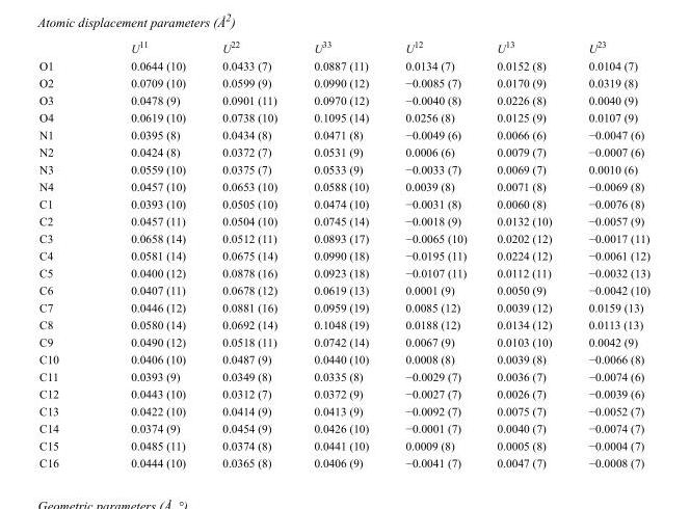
<table><thead><tr><td></td><td>U<sup>11</sup></td><td>U<sup>22</sup></td><td>U<sup>33</sup></td><td>U<sup>12</sup></td><td>U<sup>13</sup></td><td>U<sup>23</sup></td></tr></thead><tbody><tr><td>O1</td><td>0.0644 (10)</td><td>0.0433 (7)</td><td>0.0887 (11)</td><td>0.0134 (7)</td><td>0.0152 (8)</td><td>0.0104 (7)</td></tr><tr><td>O2</td><td>0.0709 (10)</td><td>0.0599 (9)</td><td>0.0990 (12)</td><td>−0.0085 (7)</td><td>0.0170 (9)</td><td>0.0319 (8)</td></tr><tr><td>O3</td><td>0.0478 (9)</td><td>0.0901 (11)</td><td>0.0970 (12)</td><td>−0.0040 (8)</td><td>0.0226 (8)</td><td>0.0040 (9)</td></tr><tr><td>O4</td><td>0.0619 (10)</td><td>0.0738 (10)</td><td>0.1095 (14)</td><td>0.0256 (8)</td><td>0.0125 (9)</td><td>0.0107 (9)</td></tr><tr><td>N1</td><td>0.0395 (8)</td><td>0.0434 (8)</td><td>0.0471 (8)</td><td>−0.0049 (6)</td><td>0.0066 (6)</td><td>−0.0047 (6)</td></tr><tr><td>N2</td><td>0.0424 (8)</td><td>0.0372 (7)</td><td>0.0531 (9)</td><td>0.0006 (6)</td><td>0.0079 (7)</td><td>−0.0007 (6)</td></tr><tr><td>N3</td><td>0.0559 (10)</td><td>0.0375 (7)</td><td>0.0533 (9)</td><td>−0.0033 (7)</td><td>0.0069 (7)</td><td>0.0010 (6)</td></tr><tr><td>N4</td><td>0.0457 (10)</td><td>0.0653 (10)</td><td>0.0588 (10)</td><td>0.0039 (8)</td><td>0.0071 (8)</td><td>−0.0069 (8)</td></tr><tr><td>C1</td><td>0.0393 (10)</td><td>0.0505 (10)</td><td>0.0474 (10)</td><td>−0.0031 (8)</td><td>0.0060 (8)</td><td>−0.0076 (8)</td></tr><tr><td>C2</td><td>0.0457 (11)</td><td>0.0504 (10)</td><td>0.0745 (14)</td><td>−0.0018 (9)</td><td>0.0132 (10)</td><td>−0.0057 (9)</td></tr><tr><td>C3</td><td>0.0658 (14)</td><td>0.0512 (11)</td><td>0.0893 (17)</td><td>−0.0065 (10)</td><td>0.0202 (12)</td><td>−0.0017 (11)</td></tr><tr><td>C4</td><td>0.0581 (14)</td><td>0.0675 (14)</td><td>0.0990 (18)</td><td>−0.0195 (11)</td><td>0.0224 (12)</td><td>−0.0061 (12)</td></tr><tr><td>C5</td><td>0.0400 (12)</td><td>0.0878 (16)</td><td>0.0923 (18)</td><td>−0.0107 (11)</td><td>0.0112 (11)</td><td>−0.0032 (13)</td></tr><tr><td>C6</td><td>0.0407 (11)</td><td>0.0678 (12)</td><td>0.0619 (13)</td><td>0.0001 (9)</td><td>0.0050 (9)</td><td>−0.0042 (10)</td></tr><tr><td>C7</td><td>0.0446 (12)</td><td>0.0881 (16)</td><td>0.0959 (19)</td><td>0.0085 (12)</td><td>0.0039 (12)</td><td>0.0159 (13)</td></tr><tr><td>C8</td><td>0.0580 (14)</td><td>0.0692 (14)</td><td>0.1048 (19)</td><td>0.0188 (12)</td><td>0.0134 (12)</td><td>0.0113 (13)</td></tr><tr><td>C9</td><td>0.0490 (12)</td><td>0.0518 (11)</td><td>0.0742 (14)</td><td>0.0067 (9)</td><td>0.0103 (10)</td><td>0.0042 (9)</td></tr><tr><td>C10</td><td>0.0406 (10)</td><td>0.0487 (9)</td><td>0.0440 (10)</td><td>0.0008 (8)</td><td>0.0039 (8)</td><td>−0.0066 (8)</td></tr><tr><td>C11</td><td>0.0393 (9)</td><td>0.0349 (8)</td><td>0.0335 (8)</td><td>−0.0029 (7)</td><td>0.0036 (7)</td><td>−0.0074 (6)</td></tr><tr><td>C12</td><td>0.0443 (10)</td><td>0.0312 (7)</td><td>0.0372 (9)</td><td>−0.0027 (7)</td><td>0.0026 (7)</td><td>−0.0039 (6)</td></tr><tr><td>C13</td><td>0.0422 (10)</td><td>0.0414 (9)</td><td>0.0413 (9)</td><td>−0.0092 (7)</td><td>0.0075 (7)</td><td>−0.0052 (7)</td></tr><tr><td>C14</td><td>0.0374 (9)</td><td>0.0454 (9)</td><td>0.0426 (10)</td><td>−0.0001 (7)</td><td>0.0040 (7)</td><td>−0.0074 (7)</td></tr><tr><td>C15</td><td>0.0485 (11)</td><td>0.0374 (8)</td><td>0.0441 (10)</td><td>0.0009 (8)</td><td>0.0005 (8)</td><td>−0.0004 (7)</td></tr><tr><td>C16</td><td>0.0444 (10)</td><td>0.0365 (8)</td><td>0.0406 (9)</td><td>−0.0041 (7)</td><td>0.0047 (7)</td><td>−0.0008 (7)</td></tr></tbody></table>